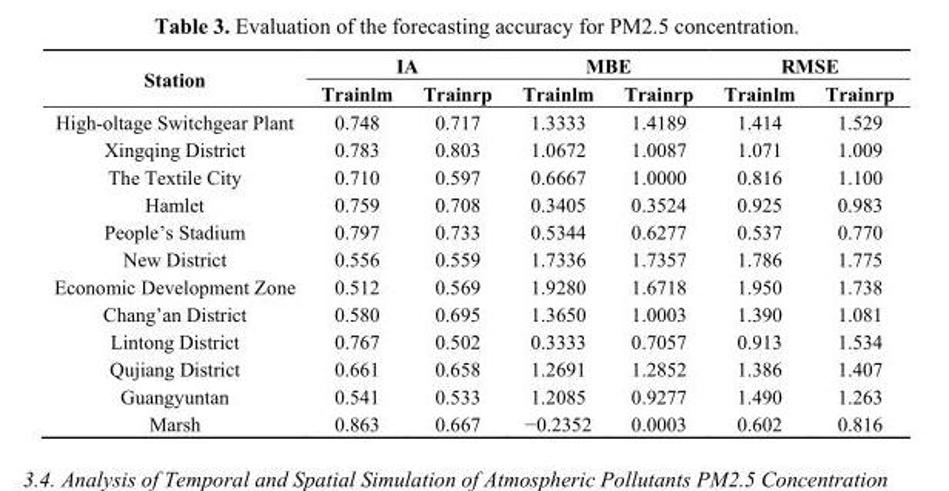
<table><thead><tr><td rowspan="2">Station</td><td colspan="2">IA</td><td colspan="2">MBE</td><td colspan="2">RMSE</td></tr><tr><td>Trainlm</td><td>Trainrp</td><td>Trainlm</td><td>Trainrp</td><td>Trainlm</td><td>Trainrp</td></tr></thead><tbody><tr><td>High-oltage Switchgear Plant</td><td>0.748</td><td>0.717</td><td>1.3333</td><td>1.4189</td><td>1.414</td><td>1.529</td></tr><tr><td>Xingqing District</td><td>0.783</td><td>0.803</td><td>1.0672</td><td>1.0087</td><td>1.071</td><td>1.009</td></tr><tr><td>The Textile City</td><td>0.710</td><td>0.597</td><td>0.6667</td><td>1.0000</td><td>0.816</td><td>1.100</td></tr><tr><td>Hamlet</td><td>0.759</td><td>0.708</td><td>0.3405</td><td>0.3524</td><td>0.925</td><td>0.983</td></tr><tr><td>People’s Stadium</td><td>0.797</td><td>0.733</td><td>0.5344</td><td>0.6277</td><td>0.537</td><td>0.770</td></tr><tr><td>New District</td><td>0.556</td><td>0.559</td><td>1.7336</td><td>1.7357</td><td>1.786</td><td>1.775</td></tr><tr><td>Economic Development Zone</td><td>0.512</td><td>0.569</td><td>1.9280</td><td>1.6718</td><td>1.950</td><td>1.738</td></tr><tr><td>Chang’an District</td><td>0.580</td><td>0.695</td><td>1.3650</td><td>1.0003</td><td>1.390</td><td>1.081</td></tr><tr><td>Lintong District</td><td>0.767</td><td>0.502</td><td>0.3333</td><td>0.7057</td><td>0.913</td><td>1.534</td></tr><tr><td>Qujiang District</td><td>0.661</td><td>0.658</td><td>1.2691</td><td>1.2852</td><td>1.386</td><td>1.407</td></tr><tr><td>Guangyuntan</td><td>0.541</td><td>0.533</td><td>1.2085</td><td>0.9277</td><td>1.490</td><td>1.263</td></tr><tr><td>Marsh</td><td>0.863</td><td>0.667</td><td>−0.2352</td><td>0.0003</td><td>0.602</td><td>0.816</td></tr></tbody></table>